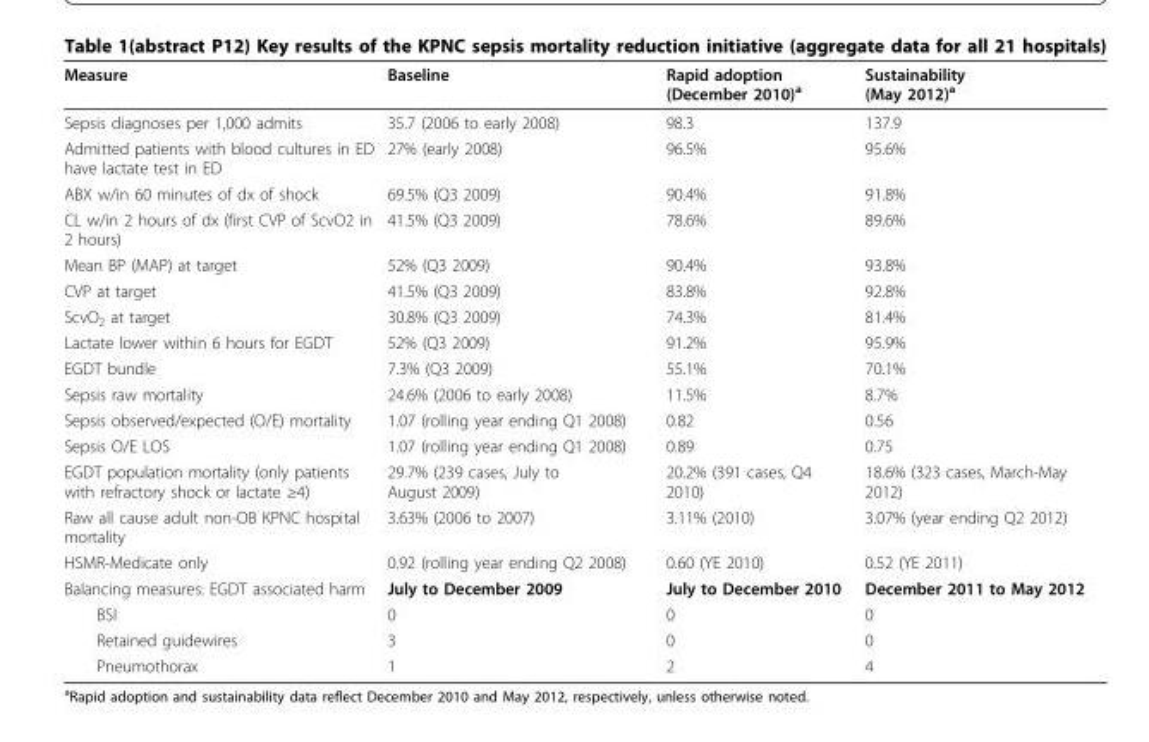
<table><thead><tr><td>Measure</td><td>Baseline</td><td>Rapid adoption (December 2010)<sup>a</sup></td><td>Sustainability (May 2012)<sup>a</sup></td></tr></thead><tbody><tr><td>Sepsis diagnoses per 1,000 admits</td><td>35.7 (2006 to early 2008)</td><td>98.3</td><td>137.9</td></tr><tr><td>Admitted patients with blood cultures in ED have lactate test in ED</td><td>27% (early 2008)</td><td>96.5%</td><td>95.6%</td></tr><tr><td>ABX w/in 60 minutes of dx of shock</td><td>69.5% (Q3 2009)</td><td>90.4%</td><td>91.8%</td></tr><tr><td>CL w/in 2 hours of dx (first CVP of ScvO2 in 2 hours)</td><td>41.5% (Q3 2009)</td><td>78.6%</td><td>89.6%</td></tr><tr><td>Mean BP (MAP) at target</td><td>52% (Q3 2009)</td><td>90.4%</td><td>93.8%</td></tr><tr><td>CVP at target</td><td>41.5% (Q3 2009)</td><td>83.8%</td><td>92.8%</td></tr><tr><td>ScvO<sub>2</sub> at target</td><td>30.8% (Q3 2009)</td><td>74.3%</td><td>81.4%</td></tr><tr><td>Lactate lower within 6 hours for EGDT</td><td>52% (Q3 2009)</td><td>91.2%</td><td>95.9%</td></tr><tr><td>EGDT bundle</td><td>7.3% (Q3 2009)</td><td>55.1%</td><td>70.1%</td></tr><tr><td>Sepsis raw mortality</td><td>24.6% (2006 to early 2008)</td><td>11.5%</td><td>8.7%</td></tr><tr><td>Sepsis observed/expected (O/E) mortality</td><td>1.07 (rolling year ending Q1 2008)</td><td>0.82</td><td>0.56</td></tr><tr><td>Sepsis O/E LOS</td><td>1.07 (rolling year ending Q1 2008)</td><td>0.89</td><td>0.75</td></tr><tr><td>EGDT population mortality (only patients with refractory shock or lactate ≥4)</td><td>29.7% (239 cases, July to August 2009)</td><td>20.2% (391 cases, Q4 2010)</td><td>18.6% (323 cases, March-May 2012)</td></tr><tr><td>Raw all cause adult non-OB KPNC hospital mortality</td><td>3.63% (2006 to 2007)</td><td>3.11% (2010)</td><td>3.07% (year ending Q2 2012)</td></tr><tr><td>HSMR-Medicate only</td><td>0.92 (rolling year ending Q2 2008)</td><td>0.60 (YE 2010)</td><td>0.52 (YE 2011)</td></tr><tr><td>Balancing measures: EGDT associated harm</td><td>July to December 2009</td><td>July to December 2010</td><td>December 2011 to May 2012</td></tr><tr><td>BSI</td><td>0</td><td>0</td><td>0</td></tr><tr><td>Retained guidewires</td><td>3</td><td>0</td><td>0</td></tr><tr><td>Pneumothorax</td><td>1</td><td>2</td><td>4</td></tr></tbody></table>